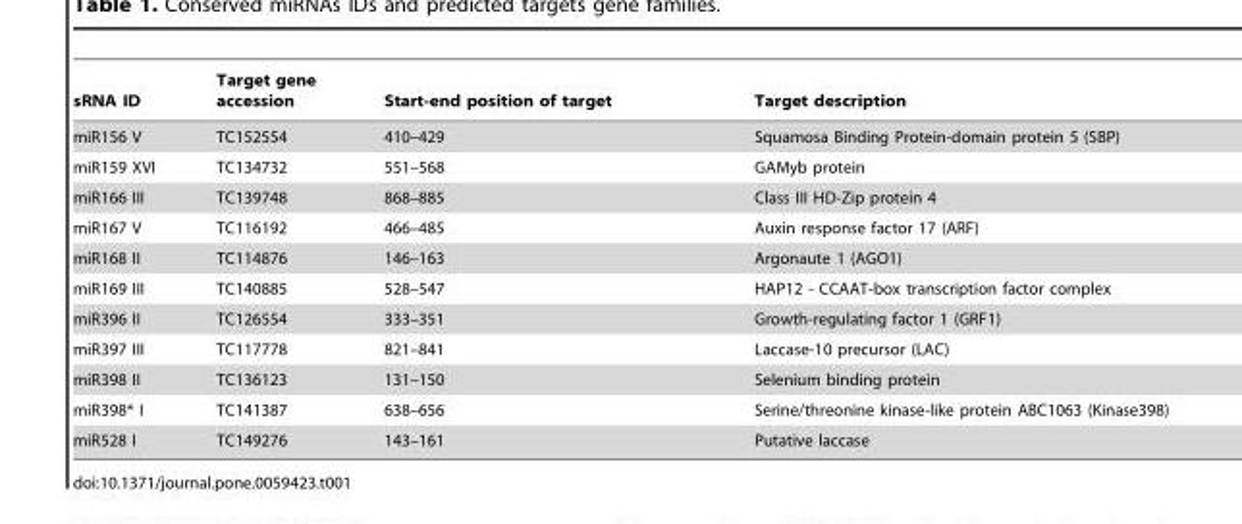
<table><thead><tr><td>sRNA ID</td><td>Target gene accession</td><td>Start-end position of target</td><td>Target description</td></tr></thead><tbody><tr><td>miR156 V</td><td>TC152554</td><td>410–429</td><td>Squamosa Binding Protein-domain protein 5 (SBP)</td></tr><tr><td>miR159 XVI</td><td>TC134732</td><td>551–568</td><td>GAMyb protein</td></tr><tr><td>miR166 III</td><td>TC139748</td><td>868–885</td><td>Class III HD-Zip protein 4</td></tr><tr><td>miR167 V</td><td>TC116192</td><td>466–485</td><td>Auxin response factor 17 (ARF)</td></tr><tr><td>miR168 II</td><td>TC114876</td><td>146–163</td><td>Argonaute 1 (AGO1)</td></tr><tr><td>miR169 III</td><td>TC140885</td><td>528–547</td><td>HAP12 - CCAAT-box transcription factor complex</td></tr><tr><td>miR396 II</td><td>TC126554</td><td>333–351</td><td>Growth-regulating factor 1 (GRF1)</td></tr><tr><td>miR397 III</td><td>TC117778</td><td>821–841</td><td>Laccase-10 precursor (LAC)</td></tr><tr><td>miR398 II</td><td>TC136123</td><td>131–150</td><td>Selenium binding protein</td></tr><tr><td>miR398* I</td><td>TC141387</td><td>638–656</td><td>Serine/threonine kinase-like protein ABC1063 (Kinase398)</td></tr><tr><td>miR528 I</td><td>TC149276</td><td>143–161</td><td>Putative laccase</td></tr></tbody></table>